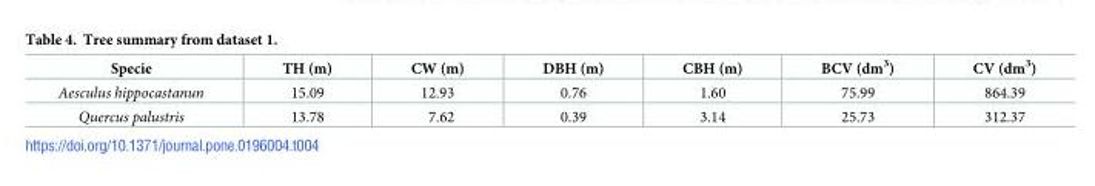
<table><thead><tr><td>Specie</td><td>TH (m)</td><td>CW (m)</td><td>DBH (m)</td><td>CBH (m)</td><td>BCV (dm<sup>3</sup>)</td><td>CV (dm<sup>3</sup>)</td></tr></thead><tbody><tr><td>Aesculus hippocastanun</td><td>15.09</td><td>12.93</td><td>0.76</td><td>1.60</td><td>75.99</td><td>864.39</td></tr><tr><td>Quercus palustris</td><td>13.78</td><td>7.62</td><td>0.39</td><td>3.14</td><td>25.73</td><td>312.37</td></tr></tbody></table>